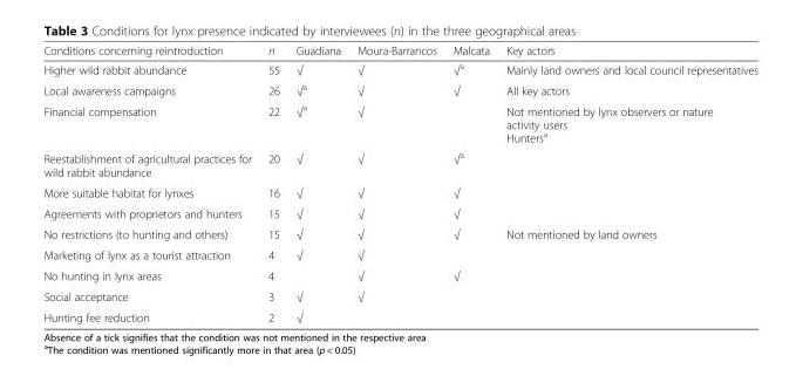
<table><thead><tr><td>Conditions concerning reintroduction</td><td>n</td><td>Guadiana</td><td>Moura-Barrancos</td><td>Malcata</td><td>Key actors</td></tr></thead><tbody><tr><td>Higher wild rabbit abundance</td><td>55</td><td>√</td><td>√</td><td>√<sup>a</sup></td><td>Mainly land owners and local council representatives</td></tr><tr><td>Local awareness campaigns</td><td>26</td><td>√<sup>a</sup></td><td>√</td><td>√</td><td>All key actors</td></tr><tr><td>Financial compensation</td><td>22</td><td>√<sup>a</sup></td><td>√</td><td></td><td>Not mentioned by lynx observers or nature activity users Hunters<sup>a</sup></td></tr><tr><td>Reestablishment of agricultural practices for wild rabbit abundance</td><td>20</td><td>√</td><td>√</td><td>√<sup>a</sup></td><td></td></tr><tr><td>More suitable habitat for lynxes</td><td>16</td><td>√</td><td>√</td><td>√</td><td></td></tr><tr><td>Agreements with proprietors and hunters</td><td>15</td><td>√</td><td>√</td><td>√</td><td></td></tr><tr><td>No restrictions (to hunting and others)</td><td>15</td><td>√</td><td>√</td><td>√</td><td>Not mentioned by land owners</td></tr><tr><td>Marketing of lynx as a tourist attraction</td><td>4</td><td>√</td><td>√</td><td></td><td></td></tr><tr><td>No hunting in lynx areas</td><td>4</td><td></td><td>√</td><td>√</td><td></td></tr><tr><td>Social acceptance</td><td>3</td><td>√</td><td>√</td><td></td><td></td></tr><tr><td>Hunting fee reduction</td><td>2</td><td>√</td><td></td><td></td><td></td></tr></tbody></table>